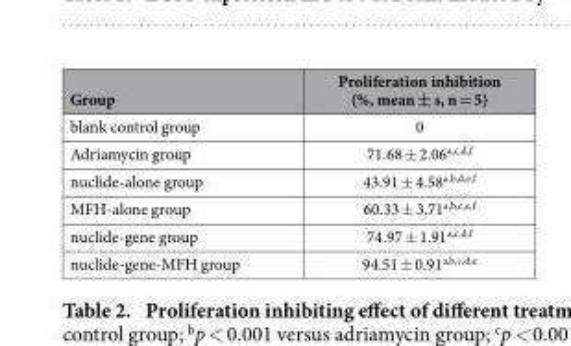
<table><thead><tr><td>Group</td><td>Proliferation inhibition (%, mean ± s, n = 5)</td></tr></thead><tbody><tr><td>blank control group</td><td>0</td></tr><tr><td>Adriamycin group</td><td>71.68 ± 2.06<sup>a,c,d,f</sup></td></tr><tr><td>nuclide-alone group</td><td>43.91 ± 4.58<sup>a,b,d,e,f</sup></td></tr><tr><td>MFH-alone group</td><td>60.33 ± 3.71<sup>a,b,c,e,f</sup></td></tr><tr><td>nuclide-gene group</td><td>74.97 ± 1.91<sup>a,c,d,f</sup></td></tr><tr><td>nuclide-gene-MFH group</td><td>94.51 ± 0.91<sup>a,b,c,d,e</sup></td></tr></tbody></table>